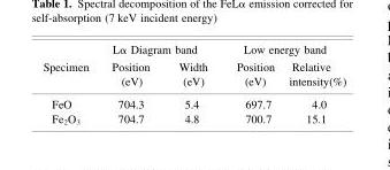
<table><thead><tr><td rowspan="2">Specimen</td><td colspan="2">Lα Diagram band</td><td colspan="2">Low energy band</td></tr><tr><td>Position (eV)</td><td>Width (eV)</td><td>Position (eV)</td><td>Relative intensity(%)</td></tr></thead><tbody><tr><td>FeO</td><td>704.3</td><td>5.4</td><td>697.7</td><td>4.0</td></tr><tr><td>Fe<sub>2</sub>O<sub>3</sub></td><td>704.7</td><td>4.8</td><td>700.7</td><td>15.1</td></tr></tbody></table>